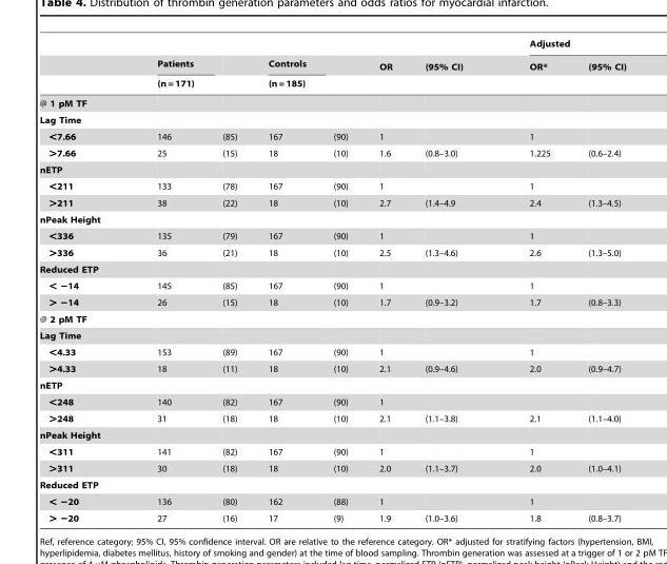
<table><thead><tr><td rowspan="3"></td><td rowspan="3">Patients (n = 171)</td><td rowspan="3"></td><td rowspan="3">Controls (n = 185)</td><td rowspan="3"></td><td rowspan="3">OR</td><td rowspan="3">(95% CI)</td><td colspan="2">Adjusted</td></tr><tr><td rowspan="2">OR*</td><td rowspan="2">(95% CI)</td></tr><tr></tr></thead><tbody><tr><td colspan="9">@ 1 pM TF</td></tr><tr><td colspan="9">Lag Time</td></tr><tr><td>&lt;7.66</td><td>146</td><td>(85)</td><td>167</td><td>(90)</td><td>1</td><td></td><td>1</td><td></td></tr><tr><td>&gt;7.66</td><td>25</td><td>(15)</td><td>18</td><td>(10)</td><td>1.6</td><td>(0.8–3.0)</td><td>1.225</td><td>(0.6–2.4)</td></tr><tr><td colspan="9">nETP</td></tr><tr><td>&lt;211</td><td>133</td><td>(78)</td><td>167</td><td>(90)</td><td>1</td><td></td><td>1</td><td></td></tr><tr><td>&gt;211</td><td>38</td><td>(22)</td><td>18</td><td>(10)</td><td>2.7</td><td>(1.4–4.9</td><td>2.4</td><td>(1.3–4.5)</td></tr><tr><td colspan="9">nPeak Height</td></tr><tr><td>&lt;336</td><td>135</td><td>(79)</td><td>167</td><td>(90)</td><td>1</td><td></td><td>1</td><td></td></tr><tr><td>&gt;336</td><td>36</td><td>(21)</td><td>18</td><td>(10)</td><td>2.5</td><td>(1.3–4.6)</td><td>2.6</td><td>(1.3–5.0)</td></tr><tr><td colspan="9">Reduced ETP</td></tr><tr><td>&lt; −14</td><td>145</td><td>(85)</td><td>167</td><td>(90)</td><td>1</td><td></td><td>1</td><td></td></tr><tr><td>&gt; −14</td><td>26</td><td>(15)</td><td>18</td><td>(10)</td><td>1.7</td><td>(0.9–3.2)</td><td>1.7</td><td>(0.8–3.3)</td></tr><tr><td colspan="9">@ 2 pM TF</td></tr><tr><td colspan="9">Lag Time</td></tr><tr><td>&lt;4.33</td><td>153</td><td>(89)</td><td>167</td><td>(90)</td><td>1</td><td></td><td>1</td><td></td></tr><tr><td>&gt;4.33</td><td>18</td><td>(11)</td><td>18</td><td>(10)</td><td>2.1</td><td>(0.9–4.6)</td><td>2.0</td><td>(0.9–4.7)</td></tr><tr><td colspan="9">nETP</td></tr><tr><td>&lt;248</td><td>140</td><td>(82)</td><td>167</td><td>(90)</td><td>1</td><td></td><td></td><td></td></tr><tr><td>&gt;248</td><td>31</td><td>(18)</td><td>18</td><td>(10)</td><td>2.1</td><td>(1.1–3.8)</td><td>2.1</td><td>(1.1–4.0)</td></tr><tr><td colspan="9">nPeak Height</td></tr><tr><td>&lt;311</td><td>141</td><td>(82)</td><td>167</td><td>(90)</td><td>1</td><td></td><td>1</td><td></td></tr><tr><td>&gt;311</td><td>30</td><td>(18)</td><td>18</td><td>(10)</td><td>2.0</td><td>(1.1–3.7)</td><td>2.0</td><td>(1.0–4.1)</td></tr><tr><td colspan="9">Reduced ETP</td></tr><tr><td>&lt; −20</td><td>136</td><td>(80)</td><td>162</td><td>(88)</td><td>1</td><td></td><td>1</td><td></td></tr><tr><td>&gt; −20</td><td>27</td><td>(16)</td><td>17</td><td>(9)</td><td>1.9</td><td>(1.0–3.6)</td><td>1.8</td><td>(0.8–3.7)</td></tr></tbody></table>